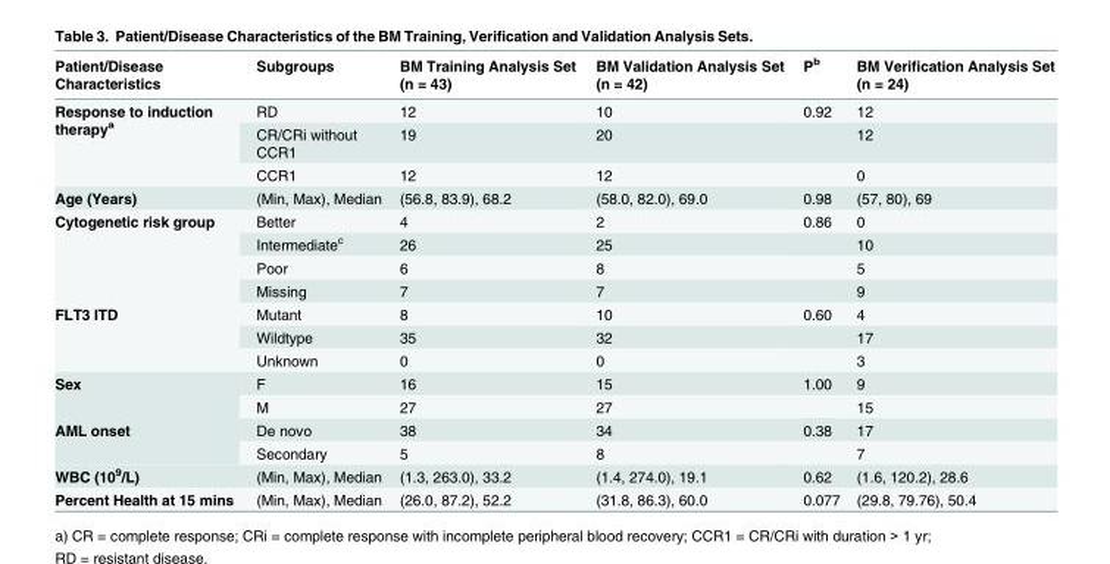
<table><thead><tr><td>Patient/Disease Characteristics</td><td>Subgroups</td><td>BM Training Analysis Set (n = 43)</td><td>BM Validation Analysis Set (n = 42)</td><td>P<sup>b</sup></td><td>BM Verification Analysis Set (n = 24)</td></tr></thead><tbody><tr><td rowspan="3">Response to induction therapy<sup>a</sup></td><td>RD</td><td>12</td><td>10</td><td>0.92</td><td>12</td></tr><tr><td>CR/CRi without CCR1</td><td>19</td><td>20</td><td></td><td>12</td></tr><tr><td>CCR1</td><td>12</td><td>12</td><td></td><td>0</td></tr><tr><td>Age (Years)</td><td>(Min, Max), Median</td><td>(56.8, 83.9), 68.2</td><td>(58.0, 82.0), 69.0</td><td>0.98</td><td>(57, 80), 69</td></tr><tr><td rowspan="4">Cytogenetic risk group</td><td>Better</td><td>4</td><td>2</td><td>0.86</td><td>0</td></tr><tr><td>Intermediate<sup>c</sup></td><td>26</td><td>25</td><td></td><td>10</td></tr><tr><td>Poor</td><td>6</td><td>8</td><td></td><td>5</td></tr><tr><td>Missing</td><td>7</td><td>7</td><td></td><td>9</td></tr><tr><td rowspan="3">FLT3 ITD</td><td>Mutant</td><td>8</td><td>10</td><td>0.60</td><td>4</td></tr><tr><td>Wildtype</td><td>35</td><td>32</td><td></td><td>17</td></tr><tr><td>Unknown</td><td>0</td><td>0</td><td></td><td>3</td></tr><tr><td rowspan="2">Sex</td><td>F</td><td>16</td><td>15</td><td>1.00</td><td>9</td></tr><tr><td>M</td><td>27</td><td>27</td><td></td><td>15</td></tr><tr><td rowspan="2">AML onset</td><td>De novo</td><td>38</td><td>34</td><td>0.38</td><td>17</td></tr><tr><td>Secondary</td><td>5</td><td>8</td><td></td><td>7</td></tr><tr><td>WBC (10<sup>9</sup>/L)</td><td>(Min, Max), Median</td><td>(1.3, 263.0), 33.2</td><td>(1.4, 274.0), 19.1</td><td>0.62</td><td>(1.6, 120.2), 28.6</td></tr><tr><td>Percent Health at 15 mins</td><td>(Min, Max), Median</td><td>(26.0, 87.2), 52.2</td><td>(31.8, 86.3), 60.0</td><td>0.077</td><td>(29.8, 79.76), 50.4</td></tr></tbody></table>